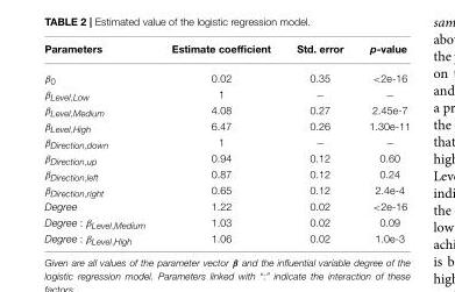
<table><thead><tr><td>Parameters</td><td>Estimate coefficient</td><td>Std. error</td><td>p-value</td></tr></thead><tbody><tr><td>β<sub>0</sub></td><td>0.02</td><td>0.35</td><td>&lt;2e-16</td></tr><tr><td>β<sub>Level,Low</sub></td><td>1</td><td>−</td><td>−</td></tr><tr><td>β<sub>Level,Medium</sub></td><td>4.08</td><td>0.27</td><td>2.45e-7</td></tr><tr><td>β<sub>Level,High</sub></td><td>6.47</td><td>0.26</td><td>1.30e-11</td></tr><tr><td>β<sub>Direction,down</sub></td><td>1</td><td>−</td><td>−</td></tr><tr><td>β<sub>Direction,up</sub></td><td>0.94</td><td>0.12</td><td>0.60</td></tr><tr><td>β<sub>Direction,left</sub></td><td>0.87</td><td>0.12</td><td>0.24</td></tr><tr><td>β<sub>Direction,right</sub></td><td>0.65</td><td>0.12</td><td>2.4e-4</td></tr><tr><td>Degree</td><td>1.22</td><td>0.02</td><td>&lt;2e-16</td></tr><tr><td>Degree : β<sub>Level,Medium</sub></td><td>1.03</td><td>0.02</td><td>0.09</td></tr><tr><td>Degree : β<sub>Level,High</sub></td><td>1.06</td><td>0.02</td><td>1.0e-3</td></tr></tbody></table>